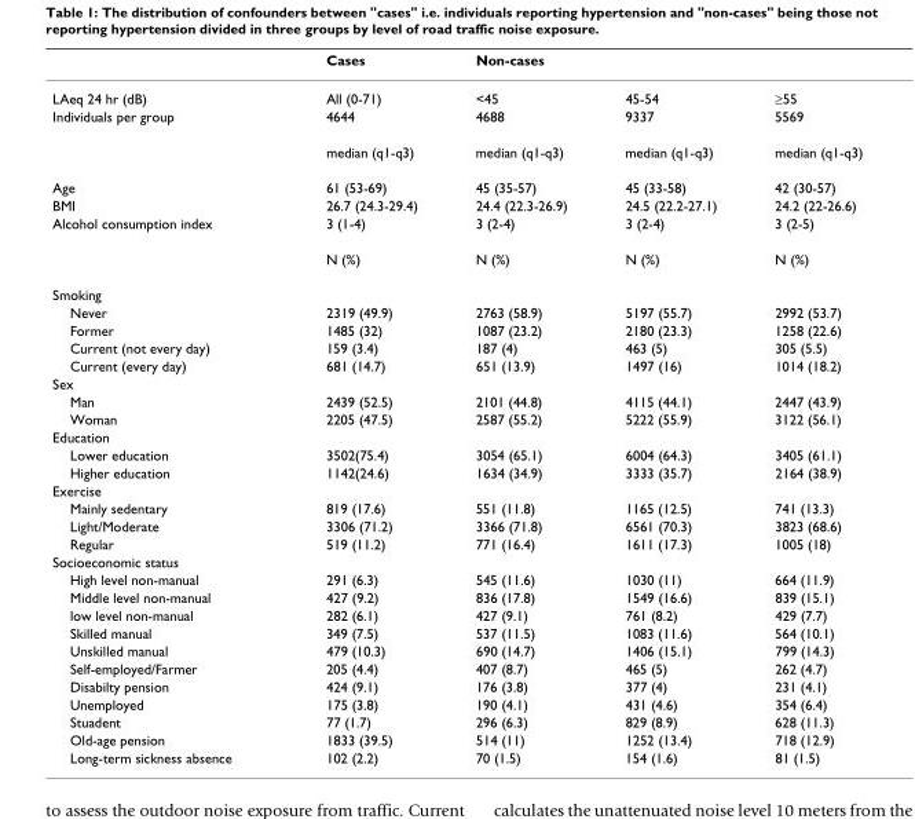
<table><thead><tr><td></td><td>Cases</td><td>Non-cases</td><td></td><td></td></tr></thead><tbody><tr><td>LAeq 24 hr (dB)</td><td>All (0-71)</td><td>&lt;45</td><td>45-54</td><td>≥55</td></tr><tr><td rowspan="2">Individuals per group</td><td>4644</td><td>4688</td><td>9337</td><td>5569</td></tr><tr><td>median (q1-q3)</td><td>median (q1-q3)</td><td>median (q1-q3)</td><td>median (q1-q3)</td></tr><tr><td>Age</td><td>61 (53-69)</td><td>45 (35-57)</td><td>45 (33-58)</td><td>42 (30-57)</td></tr><tr><td>BMI</td><td>26.7 (24.3-29.4)</td><td>24.4 (22.3-26.9)</td><td>24.5 (22.2-27.1)</td><td>24.2 (22-26.6)</td></tr><tr><td rowspan="2">Alcohol consumption index</td><td>3 (1-4)</td><td>3 (2-4)</td><td>3 (2-4)</td><td>3 (2-5)</td></tr><tr><td>N (%)</td><td>N (%)</td><td>N (%)</td><td>N (%)</td></tr><tr><td colspan="5">Smoking</td></tr><tr><td>Never</td><td>2319 (49.9)</td><td>2763 (58.9)</td><td>5197 (55.7)</td><td>2992 (53.7)</td></tr><tr><td>Former</td><td>1485 (32)</td><td>1087 (23.2)</td><td>2180 (23.3)</td><td>1258 (22.6)</td></tr><tr><td>Current (not every day)</td><td>159 (3.4)</td><td>187 (4)</td><td>463 (5)</td><td>305 (5.5)</td></tr><tr><td>Current (every day)</td><td>681 (14.7)</td><td>651 (13.9)</td><td>1497 (16)</td><td>1014 (18.2)</td></tr><tr><td colspan="5">Sex</td></tr><tr><td>Man</td><td>2439 (52.5)</td><td>2101 (44.8)</td><td>4115 (44.1)</td><td>2447 (43.9)</td></tr><tr><td>Woman</td><td>2205 (47.5)</td><td>2587 (55.2)</td><td>5222 (55.9)</td><td>3122 (56.1)</td></tr><tr><td colspan="5">Education</td></tr><tr><td>Lower education</td><td>3502(75.4)</td><td>3054 (65.1)</td><td>6004 (64.3)</td><td>3405 (61.1)</td></tr><tr><td>Higher education</td><td>1142(24.6)</td><td>1634 (34.9)</td><td>3333 (35.7)</td><td>2164 (38.9)</td></tr><tr><td colspan="5">Exercise</td></tr><tr><td>Mainly sedentary</td><td>819 (17.6)</td><td>551 (11.8)</td><td>1165 (12.5)</td><td>741 (13.3)</td></tr><tr><td>Light/Moderate</td><td>3306 (71.2)</td><td>3366 (71.8)</td><td>6561 (70.3)</td><td>3823 (68.6)</td></tr><tr><td>Regular</td><td>519 (11.2)</td><td>771 (16.4)</td><td>1611 (17.3)</td><td>1005 (18)</td></tr><tr><td colspan="5">Socioeconomic status</td></tr><tr><td>High level non-manual</td><td>291 (6.3)</td><td>545 (11.6)</td><td>1030 (11)</td><td>664 (11.9)</td></tr><tr><td>Middle level non-manual</td><td>427 (9.2)</td><td>836 (17.8)</td><td>1549 (16.6)</td><td>839 (15.1)</td></tr><tr><td>low level non-manual</td><td>282 (6.1)</td><td>427 (9.1)</td><td>761 (8.2)</td><td>429 (7.7)</td></tr><tr><td>Skilled manual</td><td>349 (7.5)</td><td>537 (11.5)</td><td>1083 (11.6)</td><td>564 (10.1)</td></tr><tr><td>Unskilled manual</td><td>479 (10.3)</td><td>690 (14.7)</td><td>1406 (15.1)</td><td>799 (14.3)</td></tr><tr><td>Self-employed/Farmer</td><td>205 (4.4)</td><td>407 (8.7)</td><td>465 (5)</td><td>262 (4.7)</td></tr><tr><td>Disabilty pension</td><td>424 (9.1)</td><td>176 (3.8)</td><td>377 (4)</td><td>231 (4.1)</td></tr><tr><td>Unemployed</td><td>175 (3.8)</td><td>190 (4.1)</td><td>431 (4.6)</td><td>354 (6.4)</td></tr><tr><td>Stuadent</td><td>77 (1.7)</td><td>296 (6.3)</td><td>829 (8.9)</td><td>628 (11.3)</td></tr><tr><td>Old-age pension</td><td>1833 (39.5)</td><td>514 (11)</td><td>1252 (13.4)</td><td>718 (12.9)</td></tr><tr><td>Long-term sickness absence</td><td>102 (2.2)</td><td>70 (1.5)</td><td>154 (1.6)</td><td>81 (1.5)</td></tr></tbody></table>